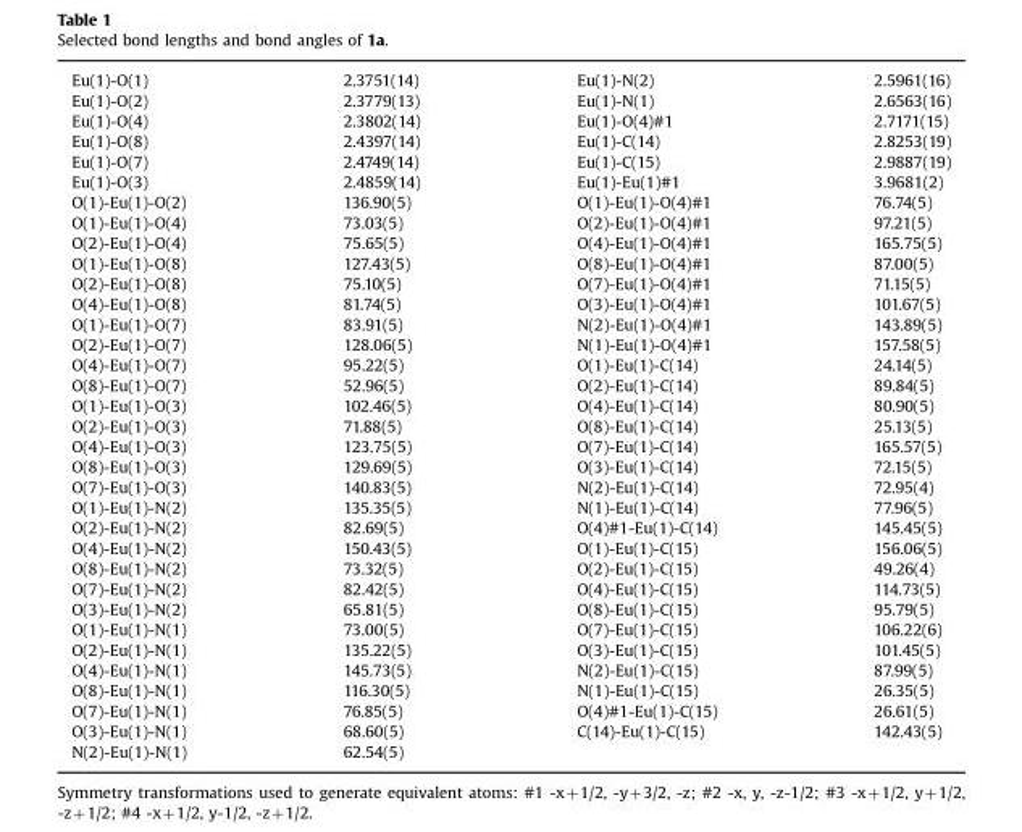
<table><tbody><tr><td>Eu(1)-O(1)</td><td>2.3751(14)</td><td>Eu(1)-N(2)</td><td>2.5961(16)</td></tr><tr><td>Eu(1)-O(2)</td><td>2.3779(13)</td><td>Eu(1)-N(1)</td><td>2.6563(16)</td></tr><tr><td>Eu(1)-O(4)</td><td>2.3802(14)</td><td>Eu(1)-O(4)#1</td><td>2.7171(15)</td></tr><tr><td>Eu(1)-O(8)</td><td>2.4397(14)</td><td>Eu(1)-C(14)</td><td>2.8253(19)</td></tr><tr><td>Eu(1)-O(7)</td><td>2.4749(14)</td><td>Eu(1)-C(15)</td><td>2.9887(19)</td></tr><tr><td>Eu(1)-O(3)</td><td>2.4859(14)</td><td>Eu(1)-Eu(1)#1</td><td>3.9681(2)</td></tr><tr><td>O(1)-Eu(1)-O(2)</td><td>136.90(5)</td><td>O(1)-Eu(1)-O(4)#1</td><td>76.74(5)</td></tr><tr><td>O(1)-Eu(1)-O(4)</td><td>73.03(5)</td><td>O(2)-Eu(1)-O(4)#1</td><td>97.21(5)</td></tr><tr><td>O(2)-Eu(1)-O(4)</td><td>75.65(5)</td><td>O(4)-Eu(1)-O(4)#1</td><td>165.75(5)</td></tr><tr><td>O(1)-Eu(1)-O(8)</td><td>127.43(5)</td><td>O(8)-Eu(1)-O(4)#1</td><td>87.00(5)</td></tr><tr><td>O(2)-Eu(1)-O(8)</td><td>75.10(5)</td><td>O(7)-Eu(1)-O(4)#1</td><td>71.15(5)</td></tr><tr><td>O(4)-Eu(1)-O(8)</td><td>81.74(5)</td><td>O(3)-Eu(1)-O(4)#1</td><td>101.67(5)</td></tr><tr><td>O(1)-Eu(1)-O(7)</td><td>83.91(5)</td><td>N(2)-Eu(1)-O(4)#1</td><td>143.89(5)</td></tr><tr><td>O(2)-Eu(1)-O(7)</td><td>128.06(5)</td><td>N(1)-Eu(1)-O(4)#1</td><td>157.58(5)</td></tr><tr><td>O(4)-Eu(1)-O(7)</td><td>95.22(5)</td><td>O(1)-Eu(1)-C(14)</td><td>24.14(5)</td></tr><tr><td>O(8)-Eu(1)-O(7)</td><td>52.96(5)</td><td>O(2)-Eu(1)-C(14)</td><td>89.84(5)</td></tr><tr><td>O(1)-Eu(1)-O(3)</td><td>102.46(5)</td><td>O(4)-Eu(1)-C(14)</td><td>80.90(5)</td></tr><tr><td>O(2)-Eu(1)-O(3)</td><td>71.88(5)</td><td>O(8)-Eu(1)-C(14)</td><td>25.13(5)</td></tr><tr><td>O(4)-Eu(1)-O(3)</td><td>123.75(5)</td><td>O(7)-Eu(1)-C(14)</td><td>165.57(5)</td></tr><tr><td>O(8)-Eu(1)-O(3)</td><td>129.69(5)</td><td>O(3)-Eu(1)-C(14)</td><td>72.15(5)</td></tr><tr><td>O(7)-Eu(1)-O(3)</td><td>140.83(5)</td><td>N(2)-Eu(1)-C(14)</td><td>72.95(4)</td></tr><tr><td>O(1)-Eu(1)-N(2)</td><td>135.35(5)</td><td>N(1)-Eu(1)-C(14)</td><td>77.96(5)</td></tr><tr><td>O(2)-Eu(1)-N(2)</td><td>82.69(5)</td><td>O(4)#1-Eu(1)-C(14)</td><td>145.45(5)</td></tr><tr><td>O(4)-Eu(1)-N(2)</td><td>150.43(5)</td><td>O(1)-Eu(1)-C(15)</td><td>156.06(5)</td></tr><tr><td>O(8)-Eu(1)-N(2)</td><td>73.32(5)</td><td>O(2)-Eu(1)-C(15)</td><td>49.26(4)</td></tr><tr><td>O(7)-Eu(1)-N(2)</td><td>82.42(5)</td><td>O(4)-Eu(1)-C(15)</td><td>114.73(5)</td></tr><tr><td>O(3)-Eu(1)-N(2)</td><td>65.81(5)</td><td>O(8)-Eu(1)-C(15)</td><td>95.79(5)</td></tr><tr><td>O(1)-Eu(1)-N(1)</td><td>73.00(5)</td><td>O(7)-Eu(1)-C(15)</td><td>106.22(6)</td></tr><tr><td>O(2)-Eu(1)-N(1)</td><td>135.22(5)</td><td>O(3)-Eu(1)-C(15)</td><td>101.45(5)</td></tr><tr><td>O(4)-Eu(1)-N(1)</td><td>145.73(5)</td><td>N(2)-Eu(1)-C(15)</td><td>87.99(5)</td></tr><tr><td>O(8)-Eu(1)-N(1)</td><td>116.30(5)</td><td>N(1)-Eu(1)-C(15)</td><td>26.35(5)</td></tr><tr><td>O(7)-Eu(1)-N(1)</td><td>76.85(5)</td><td>O(4)#1-Eu(1)-C(15)</td><td>26.61(5)</td></tr><tr><td>O(3)-Eu(1)-N(1)</td><td>68.60(5)</td><td>C(14)-Eu(1)-C(15)</td><td>142.43(5)</td></tr><tr><td>N(2)-Eu(1)-N(1)</td><td>62.54(5)</td><td></td><td></td></tr></tbody></table>